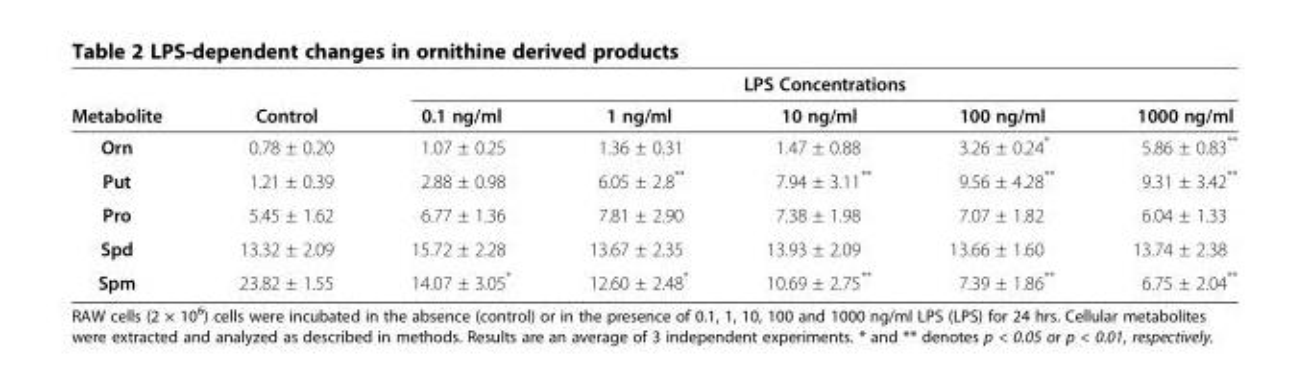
<table><thead><tr><td rowspan="2">Metabolite</td><td rowspan="2">Control</td><td rowspan="2">0.1 ng/ml</td><td rowspan="2">1 ng/ml</td><td rowspan="2">LPS Concentrations 10 ng/ml</td><td rowspan="2">100 ng/ml</td><td rowspan="2">1000 ng/ml</td></tr><tr></tr></thead><tbody><tr><td>Orn</td><td>0.78 ± 0.20</td><td>1.07 ± 0.25</td><td>1.36 ± 0.31</td><td>1.47 ± 0.88</td><td>3.26 ± 0.24*</td><td>5.86 ± 0.83**</td></tr><tr><td>Put</td><td>1.21 ± 0.39</td><td>2.88 ± 0.98</td><td>6.05 ± 2.8**</td><td>7.94 ± 3.11**</td><td>9.56 ± 4.28**</td><td>9.31 ± 3.42**</td></tr><tr><td>Pro</td><td>5.45 ± 1.62</td><td>6.77 ± 1.36</td><td>7.81 ± 2.90</td><td>7.38 ± 1.98</td><td>7.07 ± 1.82</td><td>6.04 ± 1.33</td></tr><tr><td>Spd</td><td>13.32 ± 2.09</td><td>15.72 ± 2.28</td><td>13.67 ± 2.35</td><td>13.93 ± 2.09</td><td>13.66 ± 1.60</td><td>13.74 ± 2.38</td></tr><tr><td>Spm</td><td>23.82 ± 1.55</td><td>14.07 ± 3.05*</td><td>12.60 ± 2.48*</td><td>10.69 ± 2.75**</td><td>7.39 ± 1.86**</td><td>6.75 ± 2.04**</td></tr></tbody></table>